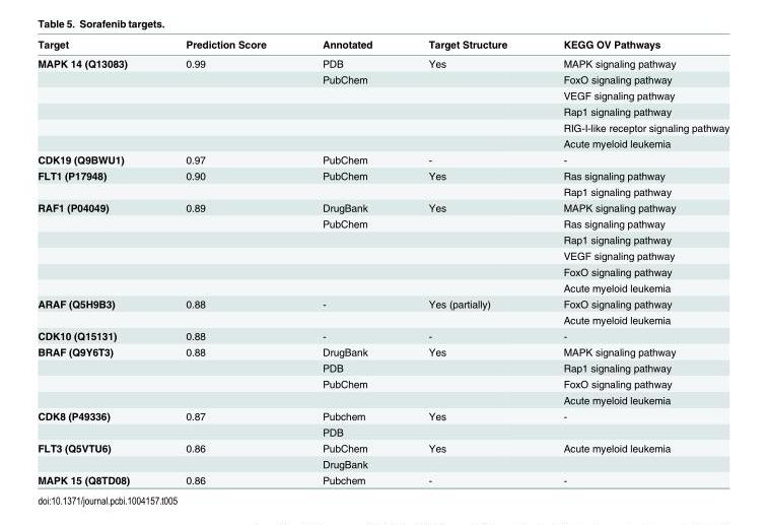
<table><thead><tr><td>Target</td><td>Prediction Score</td><td>Annotated</td><td>Target Structure</td><td>KEGG OV Pathways</td></tr></thead><tbody><tr><td rowspan="6">MAPK 14 (Q13083)</td><td>0.99</td><td>PDB</td><td>Yes</td><td>MAPK signaling pathway</td></tr><tr><td></td><td>PubChem</td><td></td><td>FoxO signaling pathway</td></tr><tr><td></td><td></td><td></td><td>VEGF signaling pathway</td></tr><tr><td></td><td></td><td></td><td>Rap1 signaling pathway</td></tr><tr><td></td><td></td><td></td><td>RIG-I-like receptor signaling pathway</td></tr><tr><td></td><td></td><td></td><td>Acute myeloid leukemia</td></tr><tr><td>CDK19 (Q9BWU1)</td><td>0.97</td><td>PubChem</td><td>-</td><td>-</td></tr><tr><td rowspan="2">FLT1 (P17948)</td><td>0.90</td><td>PubChem</td><td>Yes</td><td>Ras signaling pathway</td></tr><tr><td></td><td></td><td></td><td>Rap1 signaling pathway</td></tr><tr><td rowspan="6">RAF1 (P04049)</td><td>0.89</td><td>DrugBank</td><td>Yes</td><td>MAPK signaling pathway</td></tr><tr><td></td><td>PubChem</td><td></td><td>Ras signaling pathway</td></tr><tr><td></td><td></td><td></td><td>Rap1 signaling pathway</td></tr><tr><td></td><td></td><td></td><td>VEGF signaling pathway</td></tr><tr><td></td><td></td><td></td><td>FoxO signaling pathway</td></tr><tr><td></td><td></td><td></td><td>Acute myeloid leukemia</td></tr><tr><td rowspan="2">ARAF (Q5H9B3)</td><td>0.88</td><td>-</td><td>Yes (partially)</td><td>FoxO signaling pathway</td></tr><tr><td></td><td></td><td></td><td>Acute myeloid leukemia</td></tr><tr><td>CDK10 (Q15131)</td><td>0.88</td><td>-</td><td>-</td><td>-</td></tr><tr><td rowspan="4">BRAF (Q9Y6T3)</td><td>0.88</td><td>DrugBank</td><td>Yes</td><td>MAPK signaling pathway</td></tr><tr><td></td><td>PDB</td><td></td><td>Rap1 signaling pathway</td></tr><tr><td></td><td>PubChem</td><td></td><td>FoxO signaling pathway</td></tr><tr><td></td><td></td><td></td><td>Acute myeloid leukemia</td></tr><tr><td rowspan="2">CDK8 (P49336)</td><td>0.87</td><td>Pubchem</td><td>Yes</td><td>-</td></tr><tr><td></td><td>PDB</td><td></td><td></td></tr><tr><td rowspan="2">FLT3 (Q5VTU6)</td><td>0.86</td><td>PubChem</td><td>Yes</td><td>Acute myeloid leukemia</td></tr><tr><td></td><td>DrugBank</td><td></td><td></td></tr><tr><td>MAPK 15 (Q8TD08)</td><td>0.86</td><td>Pubchem</td><td>-</td><td>-</td></tr></tbody></table>